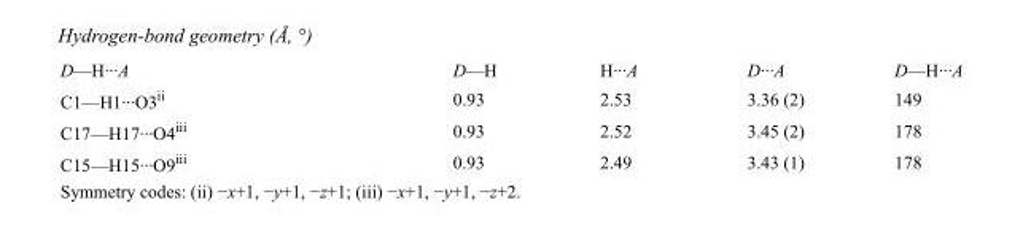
<table><tbody><tr><td>D—H···A</td><td>D—H</td><td>H···A</td><td>D···A</td><td>D—H···A</td></tr><tr><td>C1—H1···O3<sup>ii</sup></td><td>0.93</td><td>2.53</td><td>3.36 (2)</td><td>149</td></tr><tr><td>C17—H17···O4<sup>iii</sup></td><td>0.93</td><td>2.52</td><td>3.45 (2)</td><td>178</td></tr><tr><td>C15—H15···O9<sup>iii</sup></td><td>0.93</td><td>2.49</td><td>3.43 (1)</td><td>178</td></tr></tbody></table>